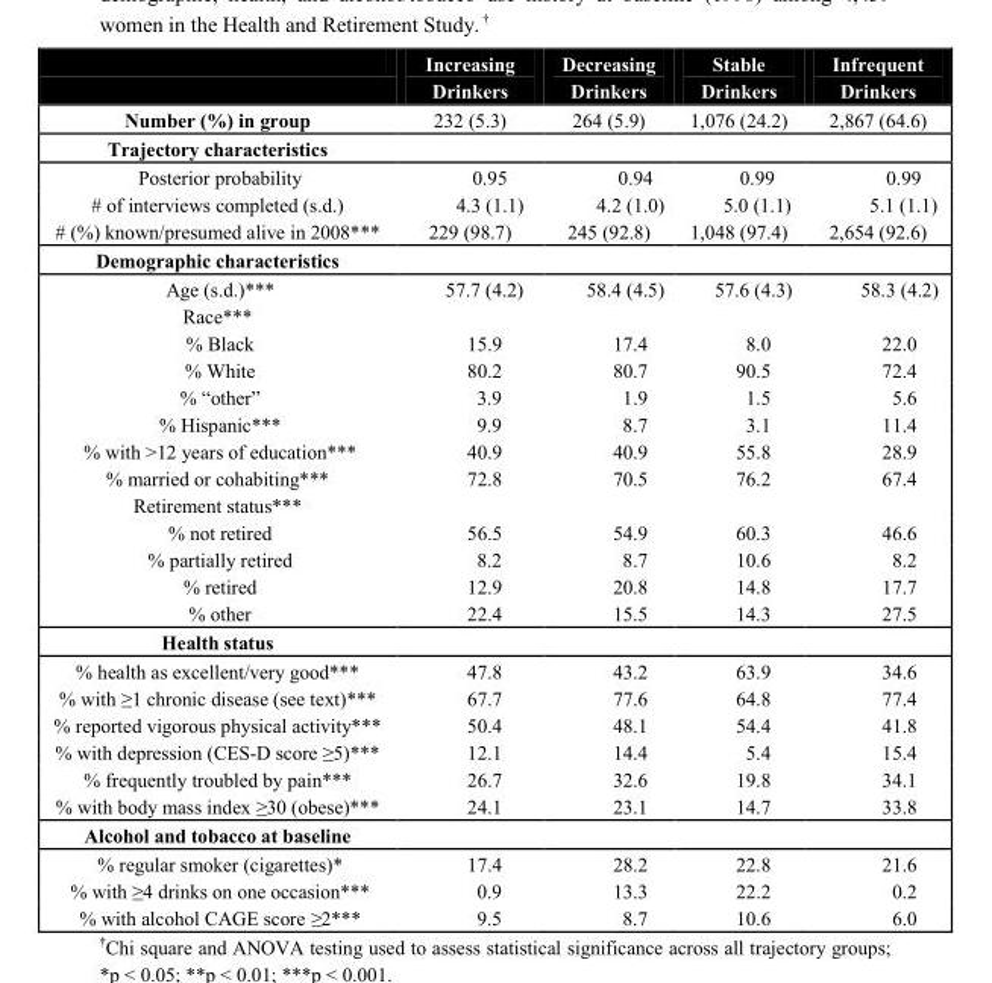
<table><thead><tr><td></td><td>Increasing Drinkers</td><td>Decreasing Drinkers</td><td>Stable Drinkers</td><td>Infrequent Drinkers</td></tr></thead><tbody><tr><td>Number (%) in group</td><td>232 (5.3)</td><td>264 (5.9)</td><td>1,076 (24.2)</td><td>2,867 (64.6)</td></tr><tr><td colspan="5">Trajectory characteristics</td></tr><tr><td>Posterior probability</td><td>0.95</td><td>0.94</td><td>0.99</td><td>0.99</td></tr><tr><td># of interviews completed (s.d.)</td><td>4.3 (1.1)</td><td>4.2 (1.0)</td><td>5.0 (1.1)</td><td>5.1 (1.1)</td></tr><tr><td># (%) known/presumed alive in 2008***</td><td>229 (98.7)</td><td>245 (92.8)</td><td>1,048 (97.4)</td><td>2,654 (92.6)</td></tr><tr><td colspan="5">Demographic characteristics</td></tr><tr><td>Age (s.d.)***</td><td>57.7 (4.2)</td><td>58.4 (4.5)</td><td>57.6 (4.3)</td><td>58.3 (4.2)</td></tr><tr><td colspan="5">Race***</td></tr><tr><td>% Black</td><td>15.9</td><td>17.4</td><td>8.0</td><td>22.0</td></tr><tr><td>% White</td><td>80.2</td><td>80.7</td><td>90.5</td><td>72.4</td></tr><tr><td>% “other”</td><td>3.9</td><td>1.9</td><td>1.5</td><td>5.6</td></tr><tr><td>% Hispanic***</td><td>9.9</td><td>8.7</td><td>3.1</td><td>11.4</td></tr><tr><td>% with &gt;12 years of education***</td><td>40.9</td><td>40.9</td><td>55.8</td><td>28.9</td></tr><tr><td>% married or cohabiting***</td><td>72.8</td><td>70.5</td><td>76.2</td><td>67.4</td></tr><tr><td colspan="5">Retirement status***</td></tr><tr><td>% not retired</td><td>56.5</td><td>54.9</td><td>60.3</td><td>46.6</td></tr><tr><td>% partially retired</td><td>8.2</td><td>8.7</td><td>10.6</td><td>8.2</td></tr><tr><td>% retired</td><td>12.9</td><td>20.8</td><td>14.8</td><td>17.7</td></tr><tr><td>% other</td><td>22.4</td><td>15.5</td><td>14.3</td><td>27.5</td></tr><tr><td colspan="5">Health status</td></tr><tr><td>% health as excellent/very good***</td><td>47.8</td><td>43.2</td><td>63.9</td><td>34.6</td></tr><tr><td>% with ≥1 chronic disease (see text)***</td><td>67.7</td><td>77.6</td><td>64.8</td><td>77.4</td></tr><tr><td>% reported vigorous physical activity***</td><td>50.4</td><td>48.1</td><td>54.4</td><td>41.8</td></tr><tr><td>% with depression (CES-D score ≥5)***</td><td>12.1</td><td>14.4</td><td>5.4</td><td>15.4</td></tr><tr><td>% frequently troubled by pain***</td><td>26.7</td><td>32.6</td><td>19.8</td><td>34.1</td></tr><tr><td>% with body mass index ≥30 (obese)***</td><td>24.1</td><td>23.1</td><td>14.7</td><td>33.8</td></tr><tr><td colspan="5">Alcohol and tobacco at baseline</td></tr><tr><td>% regular smoker (cigarettes)*</td><td>17.4</td><td>28.2</td><td>22.8</td><td>21.6</td></tr><tr><td>% with ≥4 drinks on one occasion***</td><td>0.9</td><td>13.3</td><td>22.2</td><td>0.2</td></tr><tr><td>% with alcohol CAGE score ≥2***</td><td>9.5</td><td>8.7</td><td>10.6</td><td>6.0</td></tr></tbody></table>